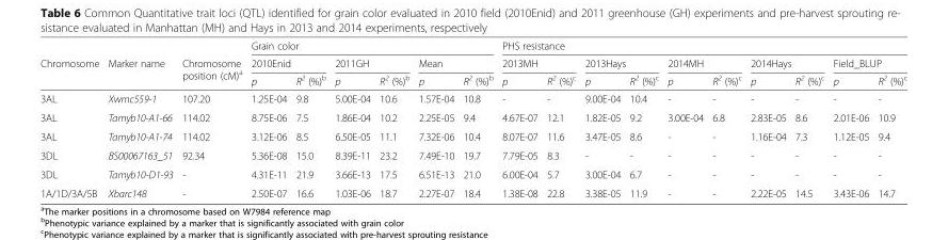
<table><thead><tr><td rowspan="3">Chromosome</td><td rowspan="3">Marker name</td><td rowspan="3">Chromosome position (cM)<sup>a</sup></td><td colspan="6">Grain color</td><td colspan="10">PHS resistance</td></tr><tr><td colspan="2">2010Enid</td><td colspan="2">2011GH</td><td colspan="2">Mean</td><td colspan="2">2013MH</td><td colspan="2">2013Hays</td><td colspan="2">2014MH</td><td colspan="2">2014Hays</td><td colspan="2">Field_BLUP</td></tr><tr><td>p</td><td>R<sup>2</sup> (%)<sup>b</sup></td><td>p</td><td>R<sup>2</sup> (%)<sup>b</sup></td><td>p</td><td>R<sup>2</sup> (%)<sup>b</sup></td><td>p</td><td>R<sup>2</sup> (%)<sup>c</sup></td><td>p</td><td>R<sup>2</sup> (%)<sup>c</sup></td><td>p</td><td>R<sup>2</sup> (%)<sup>c</sup></td><td>p</td><td>R<sup>2</sup> (%)<sup>c</sup></td><td>p</td><td>R<sup>2</sup> (%)<sup>c</sup></td></tr></thead><tbody><tr><td>3AL</td><td>Xwmc559-1</td><td>107.20</td><td>1.25E-04</td><td>9.8</td><td>5.00E-04</td><td>10.6</td><td>1.57E-04</td><td>10.8</td><td>-</td><td>-</td><td>9.00E-04</td><td>10.4</td><td>-</td><td>-</td><td>-</td><td>-</td><td>-</td><td>-</td></tr><tr><td>3AL</td><td>Tamyb10-A1-66</td><td>114.02</td><td>8.75E-06</td><td>7.5</td><td>1.86E-04</td><td>10.2</td><td>2.25E-05</td><td>9.4</td><td>4.67E-07</td><td>12.1</td><td>1.82E-05</td><td>9.2</td><td>3.00E-04</td><td>6.8</td><td>2.83E-05</td><td>8.6</td><td>2.01E-06</td><td>10.9</td></tr><tr><td>3AL</td><td>Tamyb10-A1-74</td><td>114.02</td><td>3.12E-06</td><td>8.5</td><td>6.50E-05</td><td>11.1</td><td>7.32E-06</td><td>10.4</td><td>8.07E-07</td><td>11.6</td><td>3.47E-05</td><td>8.6</td><td>-</td><td>-</td><td>1.16E-04</td><td>7.3</td><td>1.12E-05</td><td>9.4</td></tr><tr><td>3DL</td><td>BS00067163_51</td><td>92.34</td><td>5.36E-08</td><td>15.0</td><td>8.39E-11</td><td>23.2</td><td>7.49E-10</td><td>19.7</td><td>7.79E-05</td><td>8.3</td><td>-</td><td>-</td><td>-</td><td>-</td><td>-</td><td>-</td><td>-</td><td>-</td></tr><tr><td>3DL</td><td>Tamyb10-D1-93</td><td>-</td><td>4.31E-11</td><td>21.9</td><td>3.66E-13</td><td>17.5</td><td>6.51E-13</td><td>21.0</td><td>6.00E-04</td><td>5.7</td><td>3.00E-04</td><td>6.7</td><td>-</td><td>-</td><td>-</td><td>-</td><td>-</td><td>-</td></tr><tr><td>1A/1D/3A/5B</td><td>Xbarc148</td><td>-</td><td>2.50E-07</td><td>16.6</td><td>1.03E-06</td><td>18.7</td><td>2.27E-07</td><td>18.4</td><td>1.38E-08</td><td>22.8</td><td>3.38E-05</td><td>11.9</td><td>-</td><td>-</td><td>2.22E-05</td><td>14.5</td><td>3.43E-06</td><td>14.7</td></tr></tbody></table>